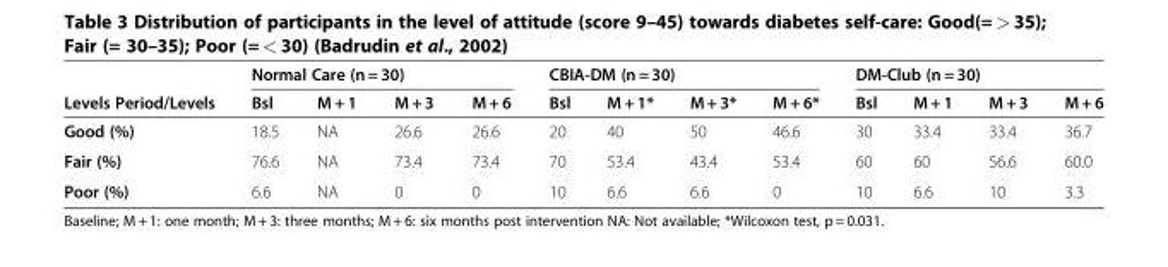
<table><thead><tr><td rowspan="2">Levels Period/Levels</td><td colspan="4">Normal Care (n = 30)</td><td colspan="4">CBIA-DM (n = 30)</td><td colspan="4">DM-Club (n = 30)</td></tr><tr><td>Bsl</td><td>M + 1</td><td>M + 3</td><td>M + 6</td><td>Bsl</td><td>M + 1*</td><td>M + 3*</td><td>M + 6*</td><td>Bsl</td><td>M + 1</td><td>M + 3</td><td>M + 6</td></tr></thead><tbody><tr><td>Good (%)</td><td>18.5</td><td>NA</td><td>26.6</td><td>26.6</td><td>20</td><td>40</td><td>50</td><td>46.6</td><td>30</td><td>33.4</td><td>33.4</td><td>36.7</td></tr><tr><td>Fair (%)</td><td>76.6</td><td>NA</td><td>73.4</td><td>73.4</td><td>70</td><td>53.4</td><td>43.4</td><td>53.4</td><td>60</td><td>60</td><td>56.6</td><td>60.0</td></tr><tr><td>Poor (%)</td><td>6.6</td><td>NA</td><td>0</td><td>0</td><td>10</td><td>6.6</td><td>6.6</td><td>0</td><td>10</td><td>6.6</td><td>10</td><td>3.3</td></tr></tbody></table>